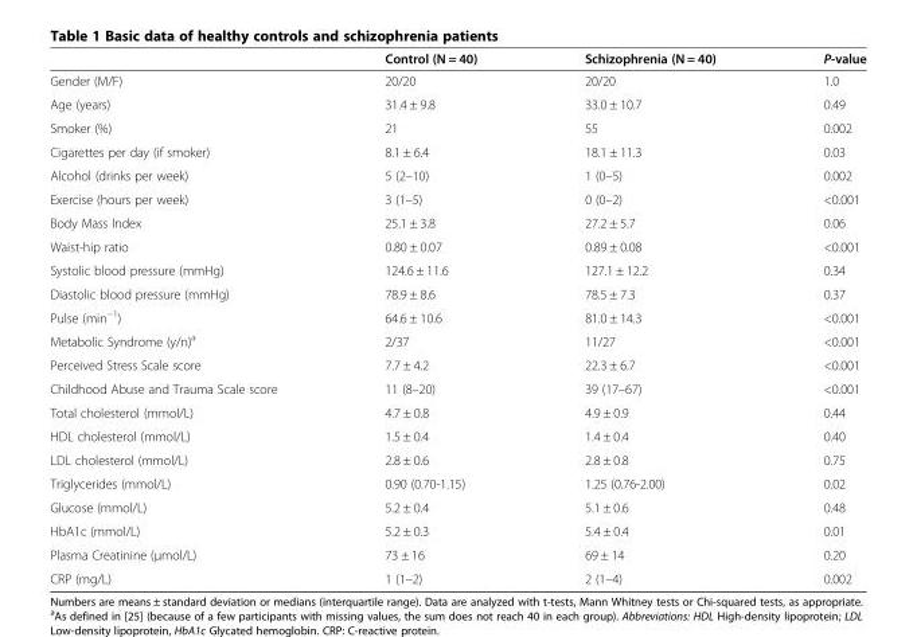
<table><thead><tr><td></td><td>Control (N = 40)</td><td>Schizophrenia (N = 40)</td><td>P-value</td></tr></thead><tbody><tr><td>Gender (M/F)</td><td>20/20</td><td>20/20</td><td>1.0</td></tr><tr><td>Age (years)</td><td>31.4 ± 9.8</td><td>33.0 ± 10.7</td><td>0.49</td></tr><tr><td>Smoker (%)</td><td>21</td><td>55</td><td>0.002</td></tr><tr><td>Cigarettes per day (if smoker)</td><td>8.1 ± 6.4</td><td>18.1 ± 11.3</td><td>0.03</td></tr><tr><td>Alcohol (drinks per week)</td><td>5 (2–10)</td><td>1 (0–5)</td><td>0.002</td></tr><tr><td>Exercise (hours per week)</td><td>3 (1–5)</td><td>0 (0–2)</td><td>&lt;0.001</td></tr><tr><td>Body Mass Index</td><td>25.1 ± 3.8</td><td>27.2 ± 5.7</td><td>0.06</td></tr><tr><td>Waist-hip ratio</td><td>0.80 ± 0.07</td><td>0.89 ± 0.08</td><td>&lt;0.001</td></tr><tr><td>Systolic blood pressure (mmHg)</td><td>124.6 ± 11.6</td><td>127.1 ± 12.2</td><td>0.34</td></tr><tr><td>Diastolic blood pressure (mmHg)</td><td>78.9 ± 8.6</td><td>78.5 ± 7.3</td><td>0.37</td></tr><tr><td>Pulse (min<sup>−1</sup>)</td><td>64.6 ± 10.6</td><td>81.0 ± 14.3</td><td>&lt;0.001</td></tr><tr><td>Metabolic Syndrome (y/n)<sup>a</sup></td><td>2/37</td><td>11/27</td><td>&lt;0.001</td></tr><tr><td>Perceived Stress Scale score</td><td>7.7 ± 4.2</td><td>22.3 ± 6.7</td><td>&lt;0.001</td></tr><tr><td>Childhood Abuse and Trauma Scale score</td><td>11 (8–20)</td><td>39 (17–67)</td><td>&lt;0.001</td></tr><tr><td>Total cholesterol (mmol/L)</td><td>4.7 ± 0.8</td><td>4.9 ± 0.9</td><td>0.44</td></tr><tr><td>HDL cholesterol (mmol/L)</td><td>1.5 ± 0.4</td><td>1.4 ± 0.4</td><td>0.40</td></tr><tr><td>LDL cholesterol (mmol/L)</td><td>2.8 ± 0.6</td><td>2.8 ± 0.8</td><td>0.75</td></tr><tr><td>Triglycerides (mmol/L)</td><td>0.90 (0.70-1.15)</td><td>1.25 (0.76-2.00)</td><td>0.02</td></tr><tr><td>Glucose (mmol/L)</td><td>5.2 ± 0.4</td><td>5.1 ± 0.6</td><td>0.48</td></tr><tr><td>HbA1c (mmol/L)</td><td>5.2 ± 0.3</td><td>5.4 ± 0.4</td><td>0.01</td></tr><tr><td>Plasma Creatinine (μmol/L)</td><td>73 ± 16</td><td>69 ± 14</td><td>0.20</td></tr><tr><td>CRP (mg/L)</td><td>1 (1–2)</td><td>2 (1–4)</td><td>0.002</td></tr></tbody></table>